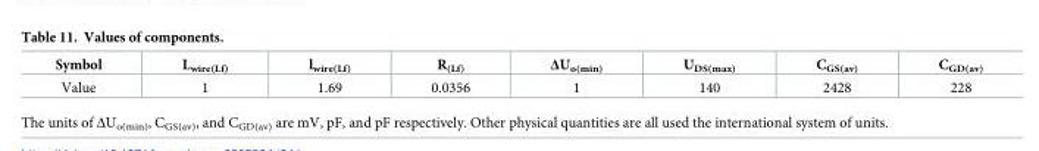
<table><thead><tr><td>Symbol</td><td>L<sub>wire(Lf)</sub></td><td>l<sub>wire(Lf)</sub></td><td>R<sub>(Lf)</sub></td><td>ΔU<sub>o(min)</sub></td><td>U<sub>DS(max)</sub></td><td>C<sub>GS(av)</sub></td><td>C<sub>GD(av)</sub></td></tr></thead><tbody><tr><td>Value</td><td>1</td><td>1.69</td><td>0.0356</td><td>1</td><td>140</td><td>2428</td><td>228</td></tr></tbody></table>